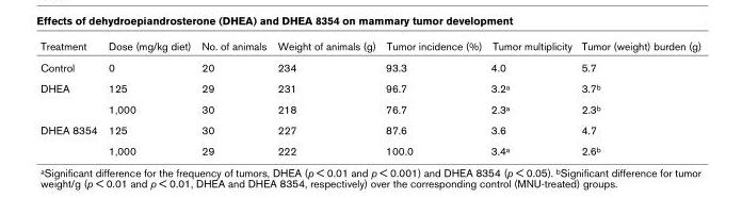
<table><thead><tr><td>Treatment</td><td>Dose (mg/kg diet)</td><td>No. of animals</td><td>Weight of animals (g)</td><td>Tumor incidence (%)</td><td>Tumor multiplicity</td><td>Tumor (weight) burden (g)</td></tr></thead><tbody><tr><td>Control</td><td>0</td><td>20</td><td>234</td><td>93.3</td><td>4.0</td><td>5.7</td></tr><tr><td rowspan="2">DHEA</td><td>125</td><td>29</td><td>231</td><td>96.7</td><td>3.2a</td><td>3.7b</td></tr><tr><td>1,000</td><td>30</td><td>218</td><td>76.7</td><td>2.3a</td><td>2.3b</td></tr><tr><td rowspan="2">DHEA 8354</td><td>125</td><td>30</td><td>227</td><td>87.6</td><td>3.6</td><td>4.7</td></tr><tr><td>1,000</td><td>29</td><td>222</td><td>100.0</td><td>3.4a</td><td>2.6b</td></tr></tbody></table>